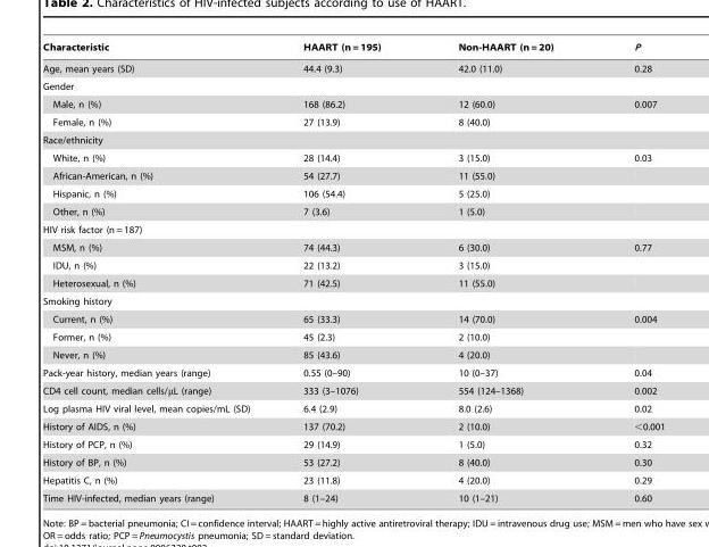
<table><thead><tr><td>Characteristic</td><td>HAART (n = 195)</td><td>Non-HAART (n = 20)</td><td>P</td></tr></thead><tbody><tr><td>Age, mean years (SD)</td><td>44.4 (9.3)</td><td>42.0 (11.0)</td><td>0.28</td></tr><tr><td colspan="4">Gender</td></tr><tr><td>Male, n (%)</td><td>168 (86.2)</td><td>12 (60.0)</td><td>0.007</td></tr><tr><td>Female, n (%)</td><td>27 (13.9)</td><td>8 (40.0)</td><td></td></tr><tr><td colspan="4">Race/ethnicity</td></tr><tr><td>White, n (%)</td><td>28 (14.4)</td><td>3 (15.0)</td><td>0.03</td></tr><tr><td>African-American, n (%)</td><td>54 (27.7)</td><td>11 (55.0)</td><td></td></tr><tr><td>Hispanic, n (%)</td><td>106 (54.4)</td><td>5 (25.0)</td><td></td></tr><tr><td>Other, n (%)</td><td>7 (3.6)</td><td>1 (5.0)</td><td></td></tr><tr><td colspan="4">HIV risk factor (n = 187)</td></tr><tr><td>MSM, n (%)</td><td>74 (44.3)</td><td>6 (30.0)</td><td>0.77</td></tr><tr><td>IDU, n (%)</td><td>22 (13.2)</td><td>3 (15.0)</td><td></td></tr><tr><td>Heterosexual, n (%)</td><td>71 (42.5)</td><td>11 (55.0)</td><td></td></tr><tr><td colspan="4">Smoking history</td></tr><tr><td>Current, n (%)</td><td>65 (33.3)</td><td>14 (70.0)</td><td>0.004</td></tr><tr><td>Former, n (%)</td><td>45 (2.3)</td><td>2 (10.0)</td><td></td></tr><tr><td>Never, n (%)</td><td>85 (43.6)</td><td>4 (20.0)</td><td></td></tr><tr><td>Pack-year history, median years (range)</td><td>0.55 (0–90)</td><td>10 (0–37)</td><td>0.04</td></tr><tr><td>CD4 cell count, median cells/μL (range)</td><td>333 (3–1076)</td><td>554 (124–1368)</td><td>0.002</td></tr><tr><td>Log plasma HIV viral level, mean copies/mL (SD)</td><td>6.4 (2.9)</td><td>8.0 (2.6)</td><td>0.02</td></tr><tr><td>History of AIDS, n (%)</td><td>137 (70.2)</td><td>2 (10.0)</td><td>&lt;0.001</td></tr><tr><td>History of PCP, n (%)</td><td>29 (14.9)</td><td>1 (5.0)</td><td>0.32</td></tr><tr><td>History of BP, n (%)</td><td>53 (27.2)</td><td>8 (40.0)</td><td>0.30</td></tr><tr><td>Hepatitis C, n (%)</td><td>23 (11.8)</td><td>4 (20.0)</td><td>0.29</td></tr><tr><td>Time HIV-infected, median years (range)</td><td>8 (1–24)</td><td>10 (1–21)</td><td>0.60</td></tr></tbody></table>